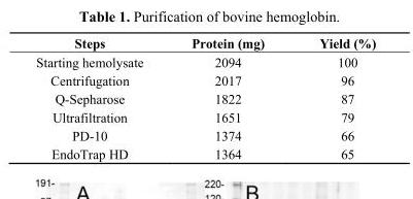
<table><thead><tr><td>Steps</td><td>Protein (mg)</td><td>Yield (%)</td></tr></thead><tbody><tr><td>Starting hemolysate</td><td>2094</td><td>100</td></tr><tr><td>Centrifugation</td><td>2017</td><td>96</td></tr><tr><td>Q-Sepharose</td><td>1822</td><td>87</td></tr><tr><td>Ultrafiltration</td><td>1651</td><td>79</td></tr><tr><td>PD-10</td><td>1374</td><td>66</td></tr><tr><td>EndoTrap HD</td><td>1364</td><td>65</td></tr></tbody></table>